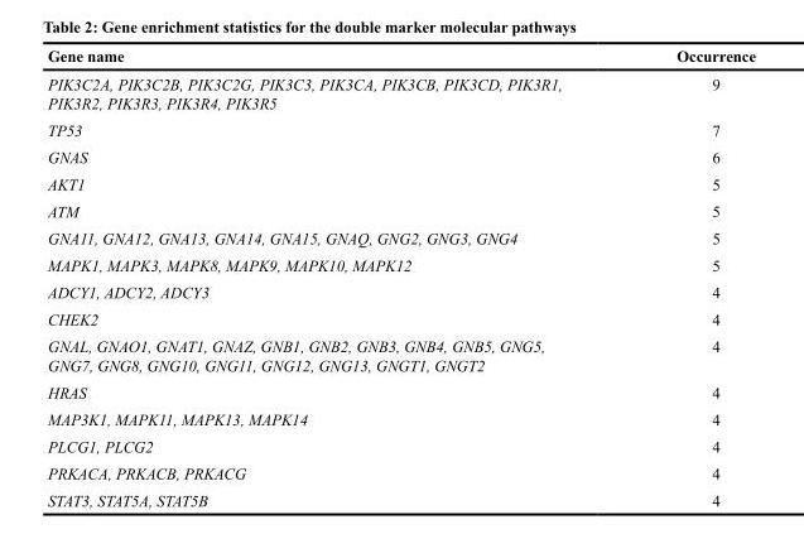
<table><thead><tr><td>Gene name</td><td>Occurrence</td></tr></thead><tbody><tr><td>PIK3C2A, PIK3C2B, PIK3C2G, PIK3C3, PIK3CA, PIK3CB, PIK3CD, PIK3R1, PIK3R2, PIK3R3, PIK3R4, PIK3R5</td><td>9</td></tr><tr><td>TP53</td><td>7</td></tr><tr><td>GNAS</td><td>6</td></tr><tr><td>AKT1</td><td>5</td></tr><tr><td>ATM</td><td>5</td></tr><tr><td>GNA11, GNA12, GNA13, GNA14, GNA15, GNAQ, GNG2, GNG3, GNG4</td><td>5</td></tr><tr><td>MAPK1, MAPK3, MAPK8, MAPK9, MAPK10, MAPK12</td><td>5</td></tr><tr><td>ADCY1, ADCY2, ADCY3</td><td>4</td></tr><tr><td>CHEK2</td><td>4</td></tr><tr><td>GNAL, GNAO1, GNAT1, GNAZ, GNB1, GNB2, GNB3, GNB4, GNB5, GNG5, GNG7, GNG8, GNG10, GNG11, GNG12, GNG13, GNGT1, GNGT2</td><td>4</td></tr><tr><td>HRAS</td><td>4</td></tr><tr><td>MAP3K1, MAPK11, MAPK13, MAPK14</td><td>4</td></tr><tr><td>PLCG1, PLCG2</td><td>4</td></tr><tr><td>PRKACA, PRKACB, PRKACG</td><td>4</td></tr><tr><td>STAT3, STAT5A, STAT5B</td><td>4</td></tr></tbody></table>